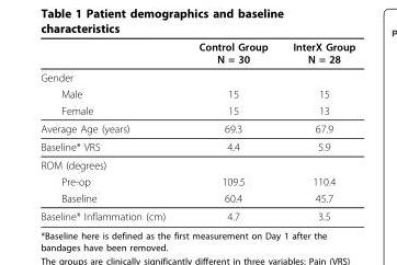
<table><thead><tr><td></td><td>Control Group N = 30</td><td>InterX Group N = 28</td></tr></thead><tbody><tr><td colspan="3">Gender</td></tr><tr><td>Male</td><td>15</td><td>15</td></tr><tr><td>Female</td><td>15</td><td>13</td></tr><tr><td>Average Age (years)</td><td>69.3</td><td>67.9</td></tr><tr><td>Baseline* VRS</td><td>4.4</td><td>5.9</td></tr><tr><td colspan="3">ROM (degrees)</td></tr><tr><td>Pre-op</td><td>109.5</td><td>110.4</td></tr><tr><td>Baseline</td><td>60.4</td><td>45.7</td></tr><tr><td>Baseline* Inflammation (cm)</td><td>4.7</td><td>3.5</td></tr></tbody></table>